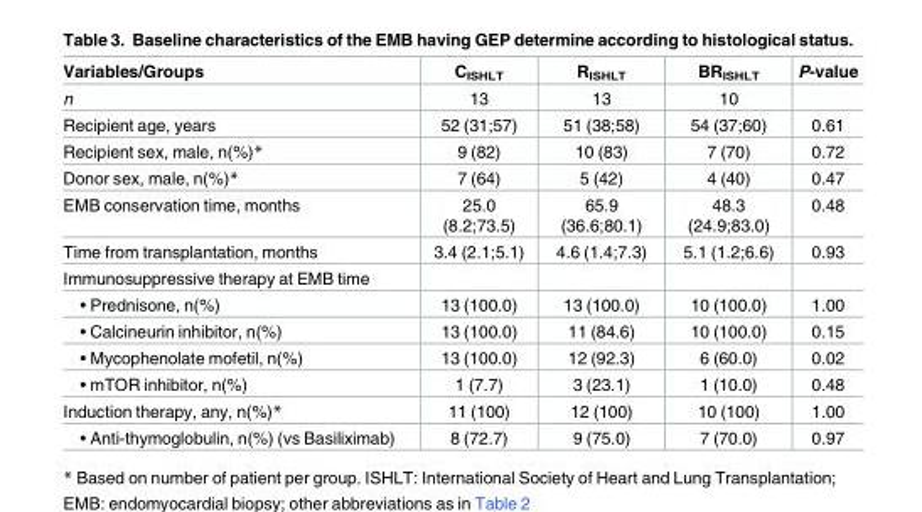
<table><thead><tr><td>Variables/Groups</td><td>C<sub>ISHLT</sub></td><td>R<sub>ISHLT</sub></td><td>BR<sub>ISHLT</sub></td><td>P-value</td></tr></thead><tbody><tr><td>n</td><td>13</td><td>13</td><td>10</td><td></td></tr><tr><td>Recipient age, years</td><td>52 (31;57)</td><td>51 (38;58)</td><td>54 (37;60)</td><td>0.61</td></tr><tr><td>Recipient sex, male, n(%)*</td><td>9 (82)</td><td>10 (83)</td><td>7 (70)</td><td>0.72</td></tr><tr><td>Donor sex, male, n(%)*</td><td>7 (64)</td><td>5 (42)</td><td>4 (40)</td><td>0.47</td></tr><tr><td>EMB conservation time, months</td><td>25.0 (8.2;73.5)</td><td>65.9 (36.6;80.1)</td><td>48.3 (24.9;83.0)</td><td>0.48</td></tr><tr><td>Time from transplantation, months</td><td>3.4 (2.1;5.1)</td><td>4.6 (1.4;7.3)</td><td>5.1 (1.2;6.6)</td><td>0.93</td></tr><tr><td colspan="5">Immunosuppressive therapy at EMB time</td></tr><tr><td>• Prednisone, n(%)</td><td>13 (100.0)</td><td>13 (100.0)</td><td>10 (100.0)</td><td>1.00</td></tr><tr><td>• Calcineurin inhibitor, n(%)</td><td>13 (100.0)</td><td>11 (84.6)</td><td>10 (100.0)</td><td>0.15</td></tr><tr><td>• Mycophenolate mofetil, n(%)</td><td>13 (100.0)</td><td>12 (92.3)</td><td>6 (60.0)</td><td>0.02</td></tr><tr><td>• mTOR inhibitor, n(%)</td><td>1 (7.7)</td><td>3 (23.1)</td><td>1 (10.0)</td><td>0.48</td></tr><tr><td>Induction therapy, any, n(%)*</td><td>11 (100)</td><td>12 (100)</td><td>10 (100)</td><td>1.00</td></tr><tr><td>• Anti-thymoglobulin, n(%) (vs Basiliximab)</td><td>8 (72.7)</td><td>9 (75.0)</td><td>7 (70.0)</td><td>0.97</td></tr></tbody></table>